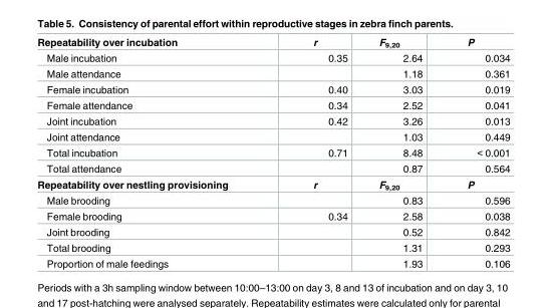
<table><tbody><tr><td>Repeatability over incubation</td><td>r</td><td>F<sub>9,20</sub></td><td>P</td></tr><tr><td>Male incubation</td><td>0.35</td><td>2.64</td><td>0.034</td></tr><tr><td>Male attendance</td><td></td><td>1.18</td><td>0.361</td></tr><tr><td>Female incubation</td><td>0.40</td><td>3.03</td><td>0.019</td></tr><tr><td>Female attendance</td><td>0.34</td><td>2.52</td><td>0.041</td></tr><tr><td>Joint incubation</td><td>0.42</td><td>3.26</td><td>0.013</td></tr><tr><td>Joint attendance</td><td></td><td>1.03</td><td>0.449</td></tr><tr><td>Total incubation</td><td>0.71</td><td>8.48</td><td>&lt; 0.001</td></tr><tr><td>Total attendance</td><td></td><td>0.87</td><td>0.564</td></tr><tr><td>Repeatability over nestling provisioning</td><td>r</td><td>F<sub>9,20</sub></td><td>P</td></tr><tr><td>Male brooding</td><td></td><td>0.83</td><td>0.596</td></tr><tr><td>Female brooding</td><td>0.34</td><td>2.58</td><td>0.038</td></tr><tr><td>Joint brooding</td><td></td><td>0.52</td><td>0.842</td></tr><tr><td>Total brooding</td><td></td><td>1.31</td><td>0.293</td></tr><tr><td>Proportion of male feedings</td><td></td><td>1.93</td><td>0.106</td></tr></tbody></table>